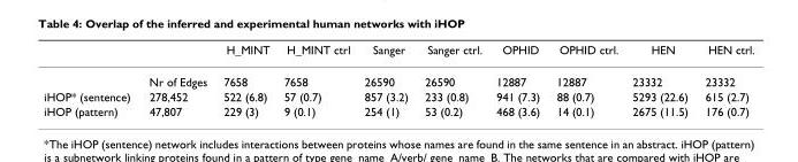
<table><thead><tr><td></td><td></td><td>H_MINT</td><td>H_MINT ctrl</td><td>Sanger</td><td>Sanger ctrl.</td><td>OPHID</td><td>OPHID ctrl.</td><td>HEN</td><td>HEN ctrl.</td></tr></thead><tbody><tr><td></td><td>Nr of Edges</td><td>7658</td><td>7658</td><td>26590</td><td>26590</td><td>12887</td><td>12887</td><td>23332</td><td>23332</td></tr><tr><td>iHOP* (sentence)</td><td>278,452</td><td>522 (6.8)</td><td>57 (0.7)</td><td>857 (3.2)</td><td>233 (0.8)</td><td>941 (7.3)</td><td>88 (0.7)</td><td>5293 (22.6)</td><td>615 (2.7)</td></tr><tr><td>iHOP (pattern)</td><td>47,807</td><td>229 (3)</td><td>9 (0.1)</td><td>254 (1)</td><td>53 (0.2)</td><td>468 (3.6)</td><td>14 (0.1)</td><td>2675 (11.5)</td><td>176 (0.7)</td></tr></tbody></table>